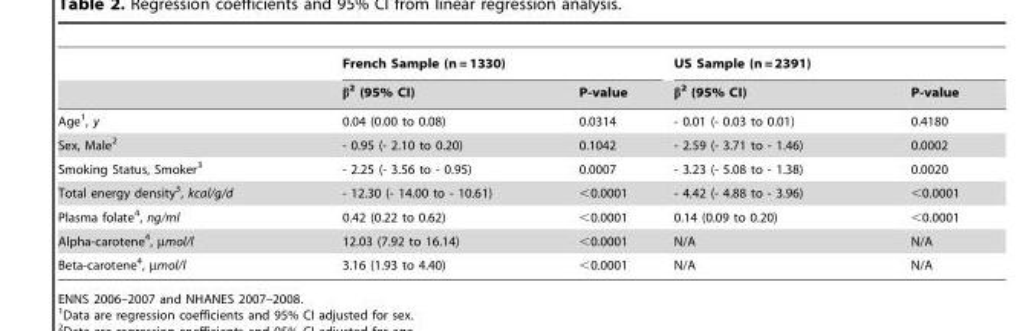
<table><thead><tr><td rowspan="2"></td><td colspan="2">French Sample (n = 1330)</td><td colspan="2">US Sample (n = 2391)</td></tr><tr><td>β<sup>2</sup> (95% CI)</td><td>P-value</td><td>β<sup>2</sup> (95% CI)</td><td>P-value</td></tr></thead><tbody><tr><td>Age<sup>1</sup>, y</td><td>0.04 (0.00 to 0.08)</td><td>0.0314</td><td>- 0.01 (- 0.03 to 0.01)</td><td>0.4180</td></tr><tr><td>Sex, Male<sup>2</sup></td><td>- 0.95 (- 2.10 to 0.20)</td><td>0.1042</td><td>- 2.59 (- 3.71 to - 1.46)</td><td>0.0002</td></tr><tr><td>Smoking Status, Smoker<sup>3</sup></td><td>- 2.25 (- 3.56 to - 0.95)</td><td>0.0007</td><td>- 3.23 (- 5.08 to - 1.38)</td><td>0.0020</td></tr><tr><td>Total energy density<sup>3</sup>, kcal/g/d</td><td>- 12.30 (- 14.00 to - 10.61)</td><td>&lt;0.0001</td><td>- 4.42 (- 4.88 to - 3.96)</td><td>&lt;0.0001</td></tr><tr><td>Plasma folate<sup>4</sup>, ng/ml</td><td>0.42 (0.22 to 0.62)</td><td>&lt;0.0001</td><td>0.14 (0.09 to 0.20)</td><td>&lt;0.0001</td></tr><tr><td>Alpha-carotene<sup>4</sup>, µmol/l</td><td>12.03 (7.92 to 16.14)</td><td>&lt;0.0001</td><td>N/A</td><td>N/A</td></tr><tr><td>Beta-carotene<sup>4</sup>, µmol/l</td><td>3.16 (1.93 to 4.40)</td><td>&lt;0.0001</td><td>N/A</td><td>N/A</td></tr></tbody></table>